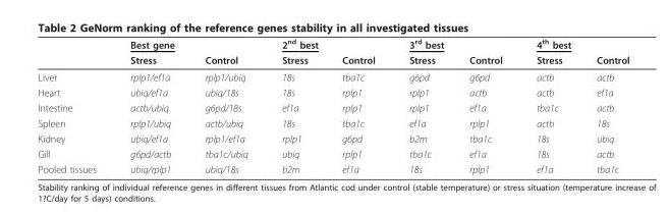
<table><thead><tr><td rowspan="2"></td><td colspan="2">Best gene</td><td colspan="2">2<sup>nd</sup> best</td><td colspan="2">3<sup>rd</sup> best</td><td colspan="2">4<sup>th</sup> best</td></tr><tr><td>Stress</td><td>Control</td><td>Stress</td><td>Control</td><td>Stress</td><td>Control</td><td>Stress</td><td>Control</td></tr></thead><tbody><tr><td>Liver</td><td>rplp1/ef1a</td><td>rplp1/ubiq</td><td>18s</td><td>tba1c</td><td>g6pd</td><td>g6pd</td><td>actb</td><td>actb</td></tr><tr><td>Heart</td><td>ubiq/ef1a</td><td>ubiq/18s</td><td>18s</td><td>rplp1</td><td>rplp1</td><td>actb</td><td>actb</td><td>ef1a</td></tr><tr><td>Intestine</td><td>actb/ubiq</td><td>g6pd/18s</td><td>ef1a</td><td>rplp1</td><td>rplp1</td><td>ef1a</td><td>tba1c</td><td>actb</td></tr><tr><td>Spleen</td><td>rplp1/ubiq</td><td>actb/ubiq</td><td>18s</td><td>tba1c</td><td>ef1a</td><td>rplp1</td><td>actb</td><td>18s</td></tr><tr><td>Kidney</td><td>ubiq/ef1a</td><td>rplp1/ef1a</td><td>rplp1</td><td>g6pd</td><td>b2m</td><td>tba1c</td><td>18s</td><td>ubiq</td></tr><tr><td>Gill</td><td>g6pd/actb</td><td>tba1c/ubiq</td><td>ubiq</td><td>rplp1</td><td>tba1c</td><td>ef1a</td><td>18s</td><td>actb</td></tr><tr><td>Pooled tissues</td><td>ubiq/rplp1</td><td>ubiq/18s</td><td>b2m</td><td>ef1a</td><td>18s</td><td>rplp1</td><td>ef1a</td><td>tba1c</td></tr></tbody></table>